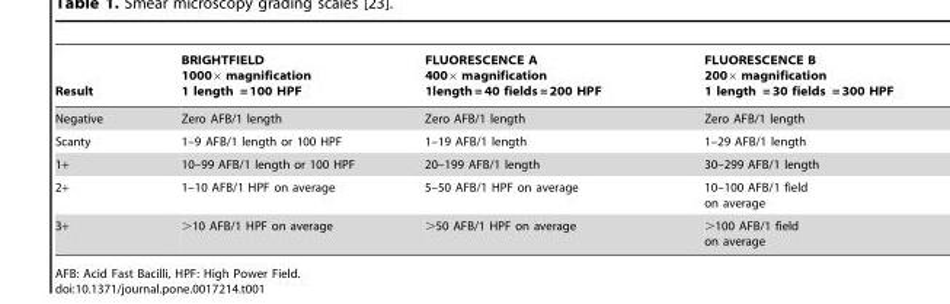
<table><thead><tr><td>Result</td><td>BRIGHTFIELD 1000× magnification 1 length = 100 HPF</td><td>FLUORESCENCE A 400× magnification 1length = 40 fields = 200 HPF</td><td>FLUORESCENCE B 200× magnification 1 length = 30 fields = 300 HPF</td></tr></thead><tbody><tr><td>Negative</td><td>Zero AFB/1 length</td><td>Zero AFB/1 length</td><td>Zero AFB/1 length</td></tr><tr><td>Scanty</td><td>1–9 AFB/1 length or 100 HPF</td><td>1–19 AFB/1 length</td><td>1–29 AFB/1 length</td></tr><tr><td>1+</td><td>10–99 AFB/1 length or 100 HPF</td><td>20–199 AFB/1 length</td><td>30–299 AFB/1 length</td></tr><tr><td>2+</td><td>1–10 AFB/1 HPF on average</td><td>5–50 AFB/1 HPF on average</td><td>10–100 AFB/1 field on average</td></tr><tr><td>3+</td><td>&gt;10 AFB/1 HPF on average</td><td>&gt;50 AFB/1 HPF on average</td><td>&gt;100 AFB/1 field on average</td></tr></tbody></table>